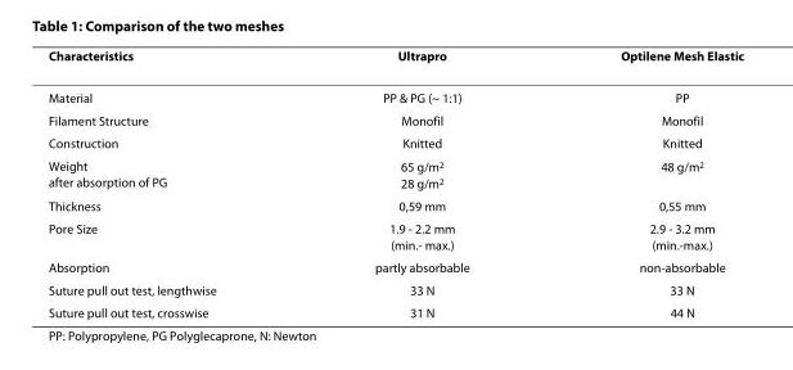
<table><thead><tr><td>Characteristics</td><td>Ultrapro</td><td>Optilene Mesh Elastic</td></tr></thead><tbody><tr><td>Material</td><td>PP &amp; PG (~ 1:1)</td><td>PP</td></tr><tr><td>Filament Structure</td><td>Monofil</td><td>Monofil</td></tr><tr><td>Construction</td><td>Knitted</td><td>Knitted</td></tr><tr><td>Weight after absorption of PG</td><td>65 g/m<sup>2</sup> 28 g/m<sup>2</sup></td><td>48 g/m<sup>2</sup></td></tr><tr><td>Thickness</td><td>0,59 mm</td><td>0,55 mm</td></tr><tr><td>Pore Size</td><td>1.9 - 2.2 mm (min.- max.)</td><td>2.9 - 3.2 mm (min.-max.)</td></tr><tr><td>Absorption</td><td>partly absorbable</td><td>non-absorbable</td></tr><tr><td>Suture pull out test, lengthwise</td><td>33 N</td><td>33 N</td></tr><tr><td>Suture pull out test, crosswise</td><td>31 N</td><td>44 N</td></tr></tbody></table>